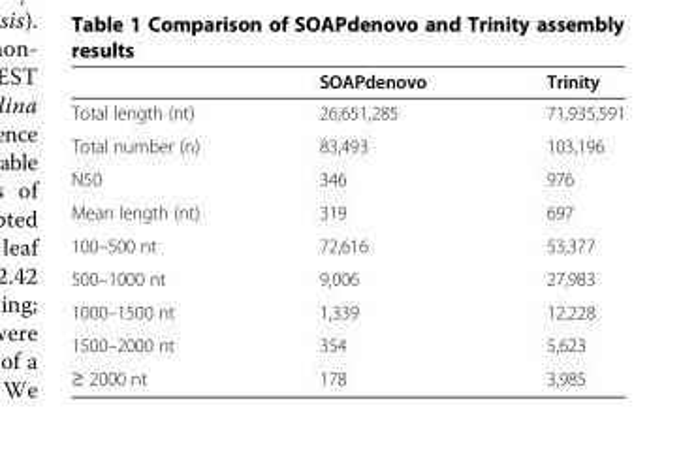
<table><thead><tr><td></td><td>SOAPdenovo</td><td>Trinity</td></tr></thead><tbody><tr><td>Total length (nt)</td><td>26,651,285</td><td>71,935,591</td></tr><tr><td>Total number (n)</td><td>83,493</td><td>103,196</td></tr><tr><td>N50</td><td>346</td><td>976</td></tr><tr><td>Mean length (nt)</td><td>319</td><td>697</td></tr><tr><td>100–500 nt</td><td>72,616</td><td>53,377</td></tr><tr><td>500–1000 nt</td><td>9,006</td><td>27,983</td></tr><tr><td>1000–1500 nt</td><td>1,339</td><td>12,228</td></tr><tr><td>1500–2000 nt</td><td>354</td><td>5,623</td></tr><tr><td>≥ 2000 nt</td><td>178</td><td>3,985</td></tr></tbody></table>